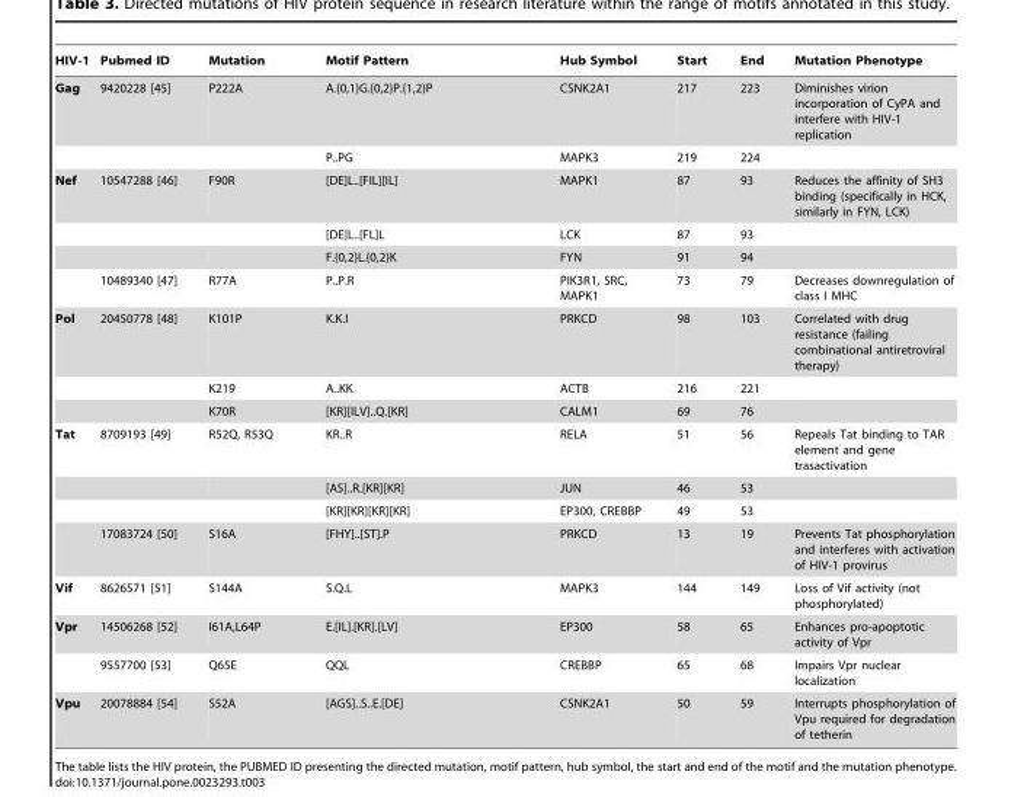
<table><thead><tr><td>HIV-1</td><td>Pubmed ID</td><td>Mutation</td><td>Motif Pattern</td><td>Hub Symbol</td><td>Start</td><td>End</td><td>Mutation Phenotype</td></tr></thead><tbody><tr><td rowspan="2">Gag</td><td>9420228 [45]</td><td>P222A</td><td>A.{0,1}G.{0,2}P.{1,2}P</td><td>CSNK2A1</td><td>217</td><td>223</td><td>Diminishes virion incorporation of CyPA and interfere with HIV-1 replication</td></tr><tr><td></td><td></td><td>P..PG</td><td>MAPK3</td><td>219</td><td>224</td><td></td></tr><tr><td rowspan="4">Nef</td><td>10547288 [46]</td><td>F90R</td><td>[DE]L..[FIL][IL]</td><td>MAPK1</td><td>87</td><td>93</td><td>Reduces the affinity of SH3 binding (specifically in HCK, similarly in FYN, LCK)</td></tr><tr><td></td><td></td><td>[DE]L..[FL]L</td><td>LCK</td><td>87</td><td>93</td><td></td></tr><tr><td></td><td></td><td>F.{0,2}L.{0,2}K</td><td>FYN</td><td>91</td><td>94</td><td></td></tr><tr><td>10489340 [47]</td><td>R77A</td><td>P..P.R</td><td>PIK3R1, SRC, MAPK1</td><td>73</td><td>79</td><td>Decreases downregulation of class I MHC</td></tr><tr><td rowspan="3">Pol</td><td>20450778 [48]</td><td>K101P</td><td>K.K.I</td><td>PRKCD</td><td>98</td><td>103</td><td>Correlated with drug resistance (failing combinational antiretroviral therapy)</td></tr><tr><td></td><td>K219</td><td>A..KK</td><td>ACTB</td><td>216</td><td>221</td><td></td></tr><tr><td></td><td>K70R</td><td>[KR][ILV]..Q.[KR]</td><td>CALM1</td><td>69</td><td>76</td><td></td></tr><tr><td rowspan="4">Tat</td><td>8709193 [49]</td><td>R52Q, R53Q</td><td>KR..R</td><td>RELA</td><td>51</td><td>56</td><td>Repeals Tat binding to TAR element and gene trasactivation</td></tr><tr><td></td><td></td><td>[AS]..R.[KR][KR]</td><td>JUN</td><td>46</td><td>53</td><td></td></tr><tr><td></td><td></td><td>[KR][KR][KR][KR]</td><td>EP300, CREBBP</td><td>49</td><td>53</td><td></td></tr><tr><td>17083724 [50]</td><td>S16A</td><td>[FHY]..[ST].P</td><td>PRKCD</td><td>13</td><td>19</td><td>Prevents Tat phosphorylation and interferes with activation of HIV-1 provirus</td></tr><tr><td>Vif</td><td>8626571 [51]</td><td>S144A</td><td>S.Q.L</td><td>MAPK3</td><td>144</td><td>149</td><td>Loss of Vif activity (not phosphorylated)</td></tr><tr><td rowspan="2">Vpr</td><td>14506268 [52]</td><td>I61A,L64P</td><td>E.[IL].[KR].[LV]</td><td>EP300</td><td>58</td><td>65</td><td>Enhances pro-apoptotic activity of Vpr</td></tr><tr><td>9557700 [53]</td><td>Q65E</td><td>QQL</td><td>CREBBP</td><td>65</td><td>68</td><td>Impairs Vpr nuclear localization</td></tr><tr><td>Vpu</td><td>20078884 [54]</td><td>S52A</td><td>[AGS]..S..E.[DE]</td><td>CSNK2A1</td><td>50</td><td>59</td><td>Interrupts phosphorylation of Vpu required for degradation of tetherin</td></tr></tbody></table>